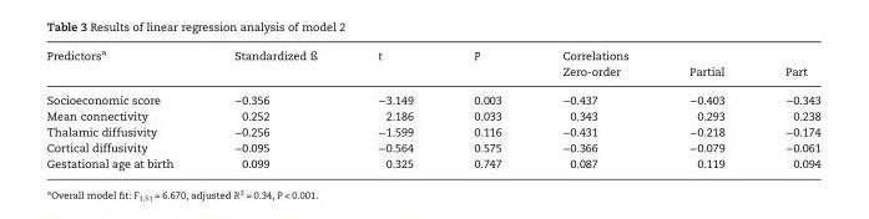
<table><thead><tr><td rowspan="2">Predictors<sup>a</sup></td><td rowspan="2">Standardized ß</td><td rowspan="2">t</td><td rowspan="2">P</td><td rowspan="2">Correlations Zero-order</td><td rowspan="2">Partial</td><td rowspan="2">Part</td></tr><tr></tr></thead><tbody><tr><td>Socioeconomic score</td><td>−0.356</td><td>−3.149</td><td>0.003</td><td>−0.437</td><td>−0.403</td><td>−0.343</td></tr><tr><td>Mean connectivity</td><td>0.252</td><td>2.186</td><td>0.033</td><td>0.343</td><td>0.293</td><td>0.238</td></tr><tr><td>Thalamic diffusivity</td><td>−0.256</td><td>−1.599</td><td>0.116</td><td>−0.431</td><td>−0.218</td><td>−0.174</td></tr><tr><td>Cortical diffusivity</td><td>−0.095</td><td>−0.564</td><td>0.575</td><td>−0.366</td><td>−0.079</td><td>−0.061</td></tr><tr><td>Gestational age at birth</td><td>0.099</td><td>0.325</td><td>0.747</td><td>0.087</td><td>0.119</td><td>0.094</td></tr></tbody></table>